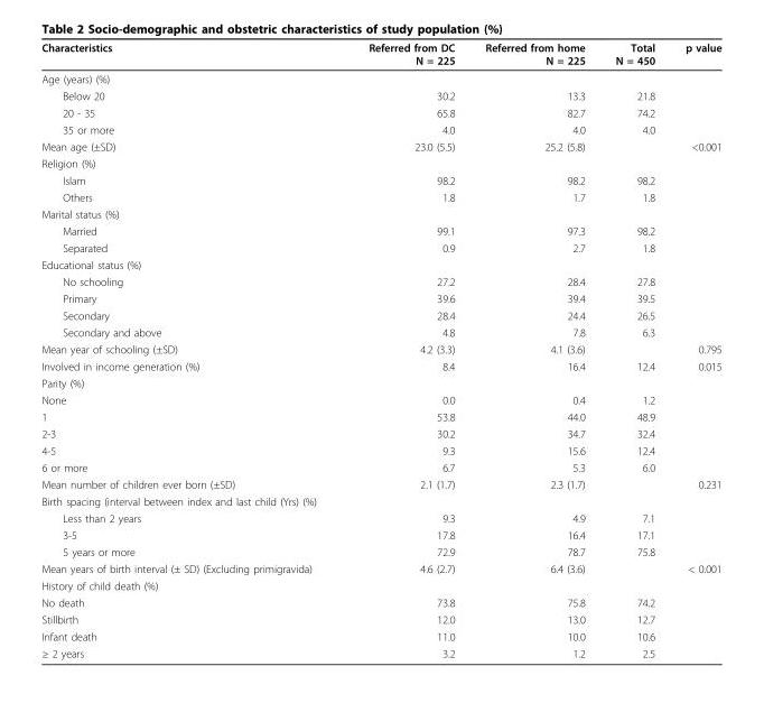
<table><thead><tr><td>Characteristics</td><td>Referred from DC N = 225</td><td>Referred from home N = 225</td><td>Total N = 450</td><td>p value</td></tr></thead><tbody><tr><td colspan="5">Age (years) (%)</td></tr><tr><td>Below 20</td><td>30.2</td><td>13.3</td><td>21.8</td><td></td></tr><tr><td>20 - 35</td><td>65.8</td><td>82.7</td><td>74.2</td><td></td></tr><tr><td>35 or more</td><td>4.0</td><td>4.0</td><td>4.0</td><td></td></tr><tr><td>Mean age (±SD)</td><td>23.0 (5.5)</td><td>25.2 (5.8)</td><td></td><td>&lt;0.001</td></tr><tr><td colspan="5">Religion (%)</td></tr><tr><td>Islam</td><td>98.2</td><td>98.2</td><td>98.2</td><td></td></tr><tr><td>Others</td><td>1.8</td><td>1.7</td><td>1.8</td><td></td></tr><tr><td colspan="5">Marital status (%)</td></tr><tr><td>Married</td><td>99.1</td><td>97.3</td><td>98.2</td><td></td></tr><tr><td>Separated</td><td>0.9</td><td>2.7</td><td>1.8</td><td></td></tr><tr><td colspan="5">Educational status (%)</td></tr><tr><td>No schooling</td><td>27.2</td><td>28.4</td><td>27.8</td><td></td></tr><tr><td>Primary</td><td>39.6</td><td>39.4</td><td>39.5</td><td></td></tr><tr><td>Secondary</td><td>28.4</td><td>24.4</td><td>26.5</td><td></td></tr><tr><td>Secondary and above</td><td>4.8</td><td>7.8</td><td>6.3</td><td></td></tr><tr><td>Mean year of schooling (±SD)</td><td>4.2 (3.3)</td><td>4.1 (3.6)</td><td></td><td>0.795</td></tr><tr><td>Involved in income generation (%)</td><td>8.4</td><td>16.4</td><td>12.4</td><td>0.015</td></tr><tr><td colspan="5">Parity (%)</td></tr><tr><td>None</td><td>0.0</td><td>0.4</td><td>1.2</td><td></td></tr><tr><td>1</td><td>53.8</td><td>44.0</td><td>48.9</td><td></td></tr><tr><td>2-3</td><td>30.2</td><td>34.7</td><td>32.4</td><td></td></tr><tr><td>4-5</td><td>9.3</td><td>15.6</td><td>12.4</td><td></td></tr><tr><td>6 or more</td><td>6.7</td><td>5.3</td><td>6.0</td><td></td></tr><tr><td>Mean number of children ever born (±SD)</td><td>2.1 (1.7)</td><td>2.3 (1.7)</td><td></td><td>0.231</td></tr><tr><td colspan="5">Birth spacing (interval between index and last child (Yrs) (%)</td></tr><tr><td>Less than 2 years</td><td>9.3</td><td>4.9</td><td>7.1</td><td></td></tr><tr><td>3-5</td><td>17.8</td><td>16.4</td><td>17.1</td><td></td></tr><tr><td>5 years or more</td><td>72.9</td><td>78.7</td><td>75.8</td><td></td></tr><tr><td>Mean years of birth interval (± SD) (Excluding primigravida)</td><td>4.6 (2.7)</td><td>6.4 (3.6)</td><td></td><td>&lt; 0.001</td></tr><tr><td colspan="5">History of child death (%)</td></tr><tr><td>No death</td><td>73.8</td><td>75.8</td><td>74.2</td><td></td></tr><tr><td>Stillbirth</td><td>12.0</td><td>13.0</td><td>12.7</td><td></td></tr><tr><td>Infant death</td><td>11.0</td><td>10.0</td><td>10.6</td><td></td></tr><tr><td>≥ 2 years</td><td>3.2</td><td>1.2</td><td>2.5</td><td></td></tr></tbody></table>